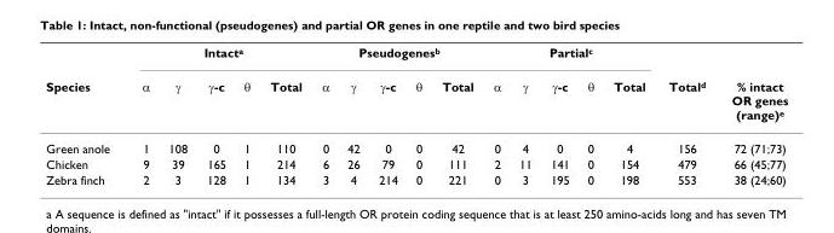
<table><thead><tr><td rowspan="2">Species</td><td colspan="5">Intact<sup>a</sup></td><td colspan="5">Pseudogenes<sup>b</sup></td><td colspan="5">Partial<sup>c</sup></td><td rowspan="2">Total<sup>d</sup></td><td rowspan="2">% intact OR genes (range)<sup>e</sup></td></tr><tr><td>α</td><td>γ</td><td>γ-c</td><td>θ</td><td>Total</td><td>α</td><td>γ</td><td>γ-c</td><td>θ</td><td>Total</td><td>α</td><td>γ</td><td>γ-c</td><td>θ</td><td>Total</td></tr></thead><tbody><tr><td>Green anole</td><td>1</td><td>108</td><td>0</td><td>1</td><td>110</td><td>0</td><td>42</td><td>0</td><td>0</td><td>42</td><td>0</td><td>4</td><td>0</td><td>0</td><td>4</td><td>156</td><td>72 (71;73)</td></tr><tr><td>Chicken</td><td>9</td><td>39</td><td>165</td><td>1</td><td>214</td><td>6</td><td>26</td><td>79</td><td>0</td><td>111</td><td>2</td><td>11</td><td>141</td><td>0</td><td>154</td><td>479</td><td>66 (45;77)</td></tr><tr><td>Zebra finch</td><td>2</td><td>3</td><td>128</td><td>1</td><td>134</td><td>3</td><td>4</td><td>214</td><td>0</td><td>221</td><td>0</td><td>3</td><td>195</td><td>0</td><td>198</td><td>553</td><td>38 (24;60)</td></tr></tbody></table>